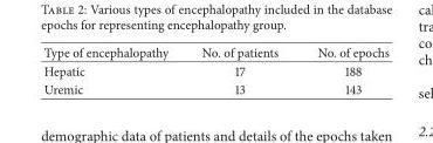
<table><thead><tr><td>Type of encephalopathy</td><td>No. of patients</td><td>No. of epochs</td></tr></thead><tbody><tr><td>Hepatic</td><td>17</td><td>188</td></tr><tr><td>Uremic</td><td>13</td><td>143</td></tr></tbody></table>